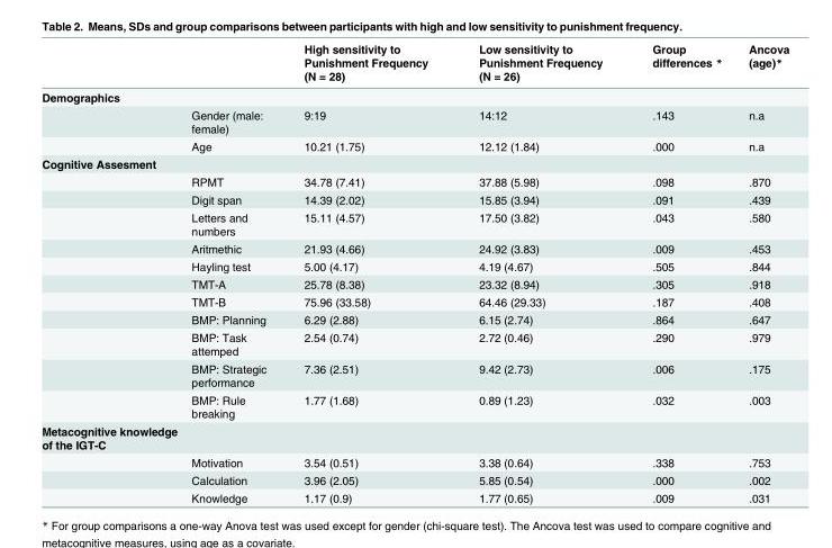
<table><thead><tr><td></td><td></td><td>High sensitivity to Punishment Frequency (N = 28)</td><td>Low sensitivity to Punishment Frequency (N = 26)</td><td>Group differences *</td><td>Ancova (age)*</td></tr></thead><tbody><tr><td colspan="6">Demographics</td></tr><tr><td></td><td>Gender (male: female)</td><td>9:19</td><td>14:12</td><td>.143</td><td>n.a</td></tr><tr><td></td><td>Age</td><td>10.21 (1.75)</td><td>12.12 (1.84)</td><td>.000</td><td>n.a</td></tr><tr><td colspan="6">Cognitive Assesment</td></tr><tr><td></td><td>RPMT</td><td>34.78 (7.41)</td><td>37.88 (5.98)</td><td>.098</td><td>.870</td></tr><tr><td></td><td>Digit span</td><td>14.39 (2.02)</td><td>15.85 (3.94)</td><td>.091</td><td>.439</td></tr><tr><td></td><td>Letters and numbers</td><td>15.11 (4.57)</td><td>17.50 (3.82)</td><td>.043</td><td>.580</td></tr><tr><td></td><td>Aritmethic</td><td>21.93 (4.66)</td><td>24.92 (3.83)</td><td>.009</td><td>.453</td></tr><tr><td></td><td>Hayling test</td><td>5.00 (4.17)</td><td>4.19 (4.67)</td><td>.505</td><td>.844</td></tr><tr><td></td><td>TMT-A</td><td>25.78 (8.38)</td><td>23.32 (8.94)</td><td>.305</td><td>.918</td></tr><tr><td></td><td>TMT-B</td><td>75.96 (33.58)</td><td>64.46 (29.33)</td><td>.187</td><td>.408</td></tr><tr><td></td><td>BMP: Planning</td><td>6.29 (2.88)</td><td>6.15 (2.74)</td><td>.864</td><td>.647</td></tr><tr><td></td><td>BMP: Task attemped</td><td>2.54 (0.74)</td><td>2.72 (0.46)</td><td>.290</td><td>.979</td></tr><tr><td></td><td>BMP: Strategic performance</td><td>7.36 (2.51)</td><td>9.42 (2.73)</td><td>.006</td><td>.175</td></tr><tr><td></td><td>BMP: Rule breaking</td><td>1.77 (1.68)</td><td>0.89 (1.23)</td><td>.032</td><td>.003</td></tr><tr><td colspan="6">Metacognitive knowledge of the IGT-C</td></tr><tr><td></td><td>Motivation</td><td>3.54 (0.51)</td><td>3.38 (0.64)</td><td>.338</td><td>.753</td></tr><tr><td></td><td>Calculation</td><td>3.96 (2.05)</td><td>5.85 (0.54)</td><td>.000</td><td>.002</td></tr><tr><td></td><td>Knowledge</td><td>1.17 (0.9)</td><td>1.77 (0.65)</td><td>.009</td><td>.031</td></tr></tbody></table>